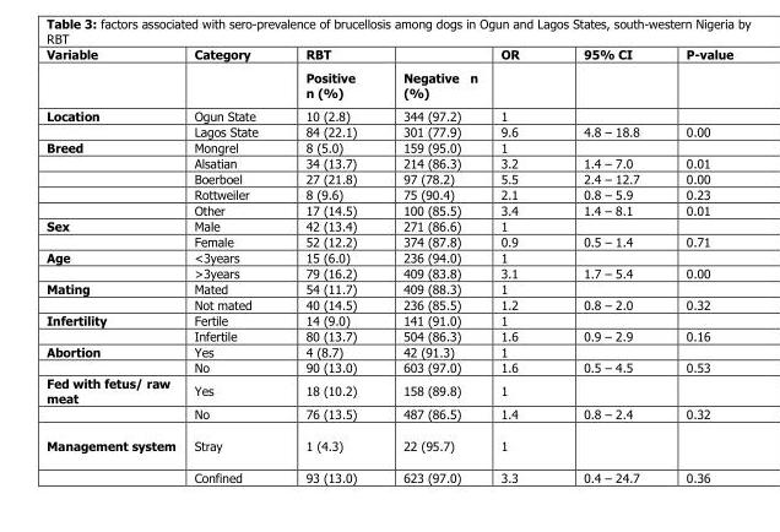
<table><thead><tr><td rowspan="2">Variable</td><td rowspan="2">Category</td><td rowspan="2">RBT Positive n (%)</td><td rowspan="2">Negative n (%)</td><td rowspan="2">OR</td><td rowspan="2">95% CI</td><td rowspan="2">P-value</td></tr><tr></tr></thead><tbody><tr><td rowspan="2">Location</td><td>Ogun State</td><td>10 (2.8)</td><td>344 (97.2)</td><td>1</td><td></td><td></td></tr><tr><td>Lagos State</td><td>84 (22.1)</td><td>301 (77.9)</td><td>9.6</td><td>4.8 – 18.8</td><td>0.00</td></tr><tr><td rowspan="5">Breed</td><td>Mongrel</td><td>8 (5.0)</td><td>159 (95.0)</td><td>1</td><td></td><td></td></tr><tr><td>Alsatian</td><td>34 (13.7)</td><td>214 (86.3)</td><td>3.2</td><td>1.4 – 7.0</td><td>0.01</td></tr><tr><td>Boerboel</td><td>27 (21.8)</td><td>97 (78.2)</td><td>5.5</td><td>2.4 – 12.7</td><td>0.00</td></tr><tr><td>Rottweiler</td><td>8 (9.6)</td><td>75 (90.4)</td><td>2.1</td><td>0.8 – 5.9</td><td>0.23</td></tr><tr><td>Other</td><td>17 (14.5)</td><td>100 (85.5)</td><td>3.4</td><td>1.4 – 8.1</td><td>0.01</td></tr><tr><td rowspan="2">Sex</td><td>Male</td><td>42 (13.4)</td><td>271 (86.6)</td><td>1</td><td></td><td></td></tr><tr><td>Female</td><td>52 (12.2)</td><td>374 (87.8)</td><td>0.9</td><td>0.5 – 1.4</td><td>0.71</td></tr><tr><td rowspan="2">Age</td><td>&lt;3years</td><td>15 (6.0)</td><td>236 (94.0)</td><td>1</td><td></td><td></td></tr><tr><td>&gt;3years</td><td>79 (16.2)</td><td>409 (83.8)</td><td>3.1</td><td>1.7 – 5.4</td><td>0.00</td></tr><tr><td rowspan="2">Mating</td><td>Mated</td><td>54 (11.7)</td><td>409 (88.3)</td><td>1</td><td></td><td></td></tr><tr><td>Not mated</td><td>40 (14.5)</td><td>236 (85.5)</td><td>1.2</td><td>0.8 – 2.0</td><td>0.32</td></tr><tr><td rowspan="2">Infertility</td><td>Fertile</td><td>14 (9.0)</td><td>141 (91.0)</td><td>1</td><td></td><td></td></tr><tr><td>Infertile</td><td>80 (13.7)</td><td>504 (86.3)</td><td>1.6</td><td>0.9 – 2.9</td><td>0.16</td></tr><tr><td rowspan="2">Abortion</td><td>Yes</td><td>4 (8.7)</td><td>42 (91.3)</td><td>1</td><td></td><td></td></tr><tr><td>No</td><td>90 (13.0)</td><td>603 (97.0)</td><td>1.6</td><td>0.5 – 4.5</td><td>0.53</td></tr><tr><td rowspan="2">Fed with fetus/ raw meat</td><td>Yes</td><td>18 (10.2)</td><td>158 (89.8)</td><td>1</td><td></td><td></td></tr><tr><td>No</td><td>76 (13.5)</td><td>487 (86.5)</td><td>1.4</td><td>0.8 – 2.4</td><td>0.32</td></tr><tr><td rowspan="2">Management system</td><td>Stray</td><td>1 (4.3)</td><td>22 (95.7)</td><td>1</td><td></td><td></td></tr><tr><td>Confined</td><td>93 (13.0)</td><td>623 (97.0)</td><td>3.3</td><td>0.4 – 24.7</td><td>0.36</td></tr></tbody></table>